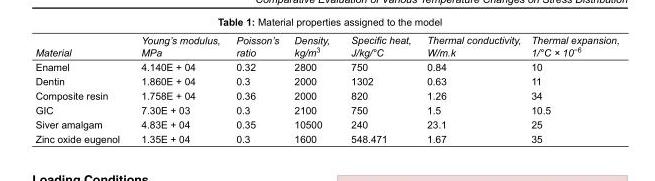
<table><tbody><tr><td>Material</td><td>Young’s modulus, MPa</td><td>Poisson’s ratio</td><td>Density, kg/m<sup>3</sup></td><td>Specific heat, J/kg/°C</td><td>Thermal conductivity, W/m.k</td><td>Thermal expansion, 1/°C × 10−6</td></tr><tr><td>Enamel</td><td>4.140E + 04</td><td>0.32</td><td>2800</td><td>750</td><td>0.84</td><td>10</td></tr><tr><td>Dentin</td><td>1.860E + 04</td><td>0.3</td><td>2000</td><td>1302</td><td>0.63</td><td>11</td></tr><tr><td>Composite resin</td><td>1.758E + 04</td><td>0.36</td><td>2000</td><td>820</td><td>1.26</td><td>34</td></tr><tr><td>GIC</td><td>7.30E + 03</td><td>0.3</td><td>2100</td><td>750</td><td>1.5</td><td>10.5</td></tr><tr><td>Siver amalgam</td><td>4.83E + 04</td><td>0.35</td><td>10500</td><td>240</td><td>23.1</td><td>25</td></tr><tr><td>Zinc oxide eugenol</td><td>1.35E + 04</td><td>0.3</td><td>1600</td><td>548.471</td><td>1.67</td><td>35</td></tr></tbody></table>